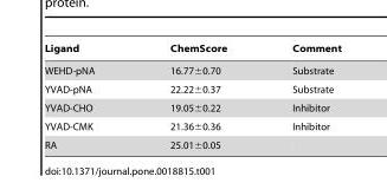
<table><thead><tr><td>Ligand</td><td>ChemScore</td><td>Comment</td></tr></thead><tbody><tr><td>WEHD-pNA</td><td>16.77±0.70</td><td>Substrate</td></tr><tr><td>YVAD-pNA</td><td>22.22±0.37</td><td>Substrate</td></tr><tr><td>YVAD-CHO</td><td>19.05±0.22</td><td>Inhibitor</td></tr><tr><td>YVAD-CMK</td><td>21.36±0.36</td><td>Inhibitor</td></tr><tr><td>RA</td><td>25.01±0.05</td><td></td></tr></tbody></table>